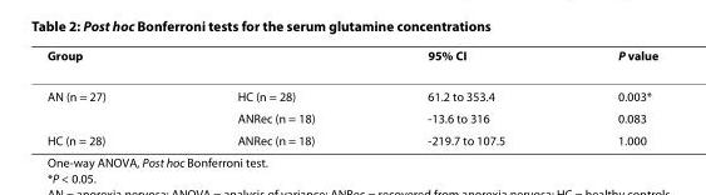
<table><thead><tr><td colspan="2">Group</td><td rowspan="2">95% CI 61.2 to 353.4</td><td rowspan="2">P value 0.003*</td></tr><tr><td>AN (n = 27)</td><td>HC (n = 28)</td></tr></thead><tbody><tr><td></td><td>ANRec (n = 18)</td><td>-13.6 to 316</td><td>0.083</td></tr><tr><td>HC (n = 28)</td><td>ANRec (n = 18)</td><td>-219.7 to 107.5</td><td>1.000</td></tr></tbody></table>